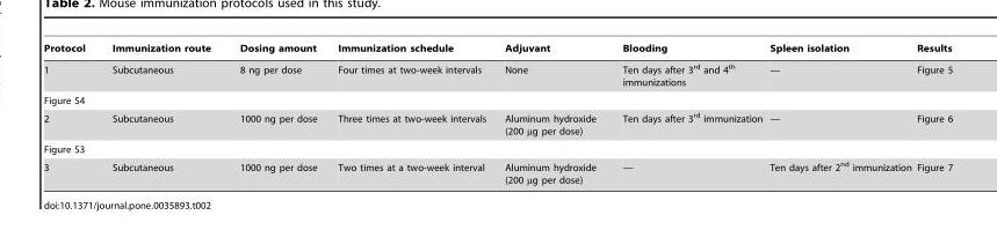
<table><thead><tr><td>Protocol</td><td>Immunization route</td><td>Dosing amount</td><td>Immunization schedule</td><td>Adjuvant</td><td>Blooding</td><td>Spleen isolation</td><td>Results</td></tr></thead><tbody><tr><td>1</td><td>Subcutaneous</td><td>8 ng per dose</td><td>Four times at two-week intervals</td><td>None</td><td>Ten days after 3<sup>rd</sup> and 4<sup>th</sup> immunizations</td><td>—</td><td>Figure 5</td></tr><tr><td colspan="8">Figure S4</td></tr><tr><td>2</td><td>Subcutaneous</td><td>1000 ng per dose</td><td>Three times at two-week intervals</td><td>Aluminum hydroxide (200 µg per dose)</td><td>Ten days after 3<sup>rd</sup> immunization</td><td>—</td><td>Figure 6</td></tr><tr><td colspan="8">Figure S3</td></tr><tr><td>3</td><td>Subcutaneous</td><td>1000 ng per dose</td><td>Two times at a two-week interval</td><td>Aluminum hydroxide (200 µg per dose)</td><td>—</td><td>Ten days after 2<sup>nd</sup> immunization</td><td>Figure 7</td></tr></tbody></table>